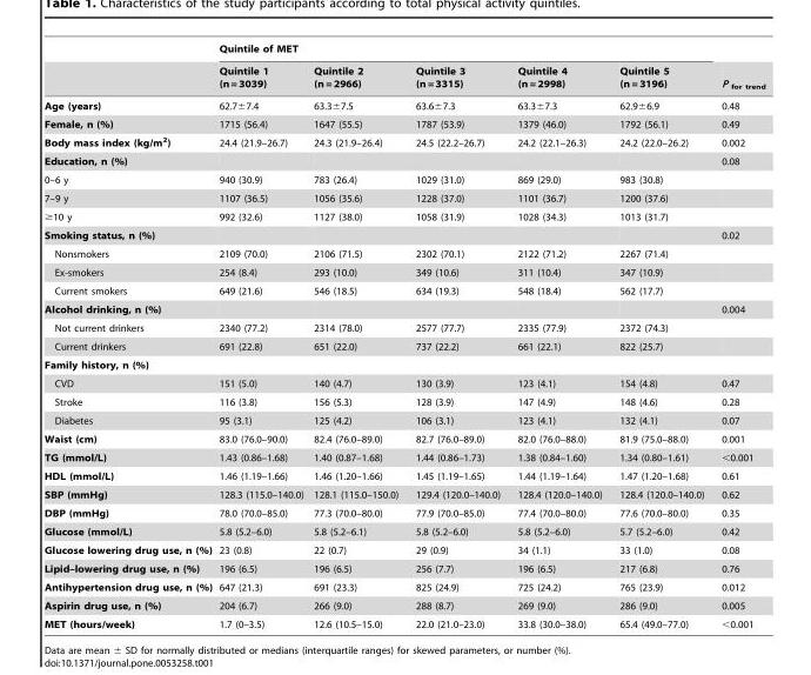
<table><thead><tr><td rowspan="2"></td><td colspan="5">Quintile of MET</td><td rowspan="2">P <sub>for trend</sub></td></tr><tr><td>Quintile 1 (n = 3039)</td><td>Quintile 2 (n = 2966)</td><td>Quintile 3 (n = 3315)</td><td>Quintile 4 (n = 2998)</td><td>Quintile 5 (n = 3196)</td></tr></thead><tbody><tr><td>Age (years)</td><td>62.7±7.4</td><td>63.3±7.5</td><td>63.6±7.3</td><td>63.3±7.3</td><td>62.9±6.9</td><td>0.48</td></tr><tr><td>Female, n (%)</td><td>1715 (56.4)</td><td>1647 (55.5)</td><td>1787 (53.9)</td><td>1379 (46.0)</td><td>1792 (56.1)</td><td>0.49</td></tr><tr><td>Body mass index (kg/m<sup>2</sup>)</td><td>24.4 (21.9–26.7)</td><td>24.3 (21.9–26.4)</td><td>24.5 (22.2–26.7)</td><td>24.2 (22.1–26.3)</td><td>24.2 (22.0–26.2)</td><td>0.002</td></tr><tr><td>Education, n (%)</td><td></td><td></td><td></td><td></td><td></td><td>0.08</td></tr><tr><td>0–6 y</td><td>940 (30.9)</td><td>783 (26.4)</td><td>1029 (31.0)</td><td>869 (29.0)</td><td>983 (30.8)</td><td></td></tr><tr><td>7–9 y</td><td>1107 (36.5)</td><td>1056 (35.6)</td><td>1228 (37.0)</td><td>1101 (36.7)</td><td>1200 (37.6)</td><td></td></tr><tr><td>≥10 y</td><td>992 (32.6)</td><td>1127 (38.0)</td><td>1058 (31.9)</td><td>1028 (34.3)</td><td>1013 (31.7)</td><td></td></tr><tr><td>Smoking status, n (%)</td><td></td><td></td><td></td><td></td><td></td><td>0.02</td></tr><tr><td>Nonsmokers</td><td>2109 (70.0)</td><td>2106 (71.5)</td><td>2302 (70.1)</td><td>2122 (71.2)</td><td>2267 (71.4)</td><td></td></tr><tr><td>Ex-smokers</td><td>254 (8.4)</td><td>293 (10.0)</td><td>349 (10.6)</td><td>311 (10.4)</td><td>347 (10.9)</td><td></td></tr><tr><td>Current smokers</td><td>649 (21.6)</td><td>546 (18.5)</td><td>634 (19.3)</td><td>548 (18.4)</td><td>562 (17.7)</td><td></td></tr><tr><td>Alcohol drinking, n (%)</td><td></td><td></td><td></td><td></td><td></td><td>0.004</td></tr><tr><td>Not current drinkers</td><td>2340 (77.2)</td><td>2314 (78.0)</td><td>2577 (77.7)</td><td>2335 (77.9)</td><td>2372 (74.3)</td><td></td></tr><tr><td>Current drinkers</td><td>691 (22.8)</td><td>651 (22.0)</td><td>737 (22.2)</td><td>661 (22.1)</td><td>822 (25.7)</td><td></td></tr><tr><td colspan="7">Family history, n (%)</td></tr><tr><td>CVD</td><td>151 (5.0)</td><td>140 (4.7)</td><td>130 (3.9)</td><td>123 (4.1)</td><td>154 (4.8)</td><td>0.47</td></tr><tr><td>Stroke</td><td>116 (3.8)</td><td>156 (5.3)</td><td>128 (3.9)</td><td>147 (4.9)</td><td>148 (4.6)</td><td>0.28</td></tr><tr><td>Diabetes</td><td>95 (3.1)</td><td>125 (4.2)</td><td>106 (3.1)</td><td>123 (4.1)</td><td>132 (4.1)</td><td>0.07</td></tr><tr><td>Waist (cm)</td><td>83.0 (76.0–90.0)</td><td>82.4 (76.0–89.0)</td><td>82.7 (76.0–89.0)</td><td>82.0 (76.0–88.0)</td><td>81.9 (75.0–88.0)</td><td>0.001</td></tr><tr><td>TG (mmol/L)</td><td>1.43 (0.86–1.68)</td><td>1.40 (0.87–1.68)</td><td>1.44 (0.86–1.73)</td><td>1.38 (0.84–1.60)</td><td>1.34 (0.80–1.61)</td><td>&lt;0.001</td></tr><tr><td>HDL (mmol/L)</td><td>1.46 (1.19–1.66)</td><td>1.46 (1.20–1.66)</td><td>1.45 (1.19–1.65)</td><td>1.44 (1.19–1.64)</td><td>1.47 (1.20–1.68)</td><td>0.61</td></tr><tr><td>SBP (mmHg)</td><td>128.3 (115.0–140.0)</td><td>128.1 (115.0–150.0)</td><td>129.4 (120.0–140.0)</td><td>128.4 (120.0–140.0)</td><td>128.4 (120.0–140.0)</td><td>0.62</td></tr><tr><td>DBP (mmHg)</td><td>78.0 (70.0–85.0)</td><td>77.3 (70.0–80.0)</td><td>77.9 (70.0–85.0)</td><td>77.4 (70.0–80.0)</td><td>77.6 (70.0–80.0)</td><td>0.35</td></tr><tr><td>Glucose (mmol/L)</td><td>5.8 (5.2–6.0)</td><td>5.8 (5.2–6.1)</td><td>5.8 (5.2–6.0)</td><td>5.8 (5.2–6.0)</td><td>5.7 (5.2–6.0)</td><td>0.42</td></tr><tr><td>Glucose lowering drug use, n (%)</td><td>23 (0.8)</td><td>22 (0.7)</td><td>29 (0.9)</td><td>34 (1.1)</td><td>33 (1.0)</td><td>0.08</td></tr><tr><td>Lipid–lowering drug use, n (%)</td><td>196 (6.5)</td><td>196 (6.5)</td><td>256 (7.7)</td><td>196 (6.5)</td><td>217 (6.8)</td><td>0.76</td></tr><tr><td>Antihypertension drug use, n (%)</td><td>647 (21.3)</td><td>691 (23.3)</td><td>825 (24.9)</td><td>725 (24.2)</td><td>765 (23.9)</td><td>0.012</td></tr><tr><td>Aspirin drug use, n (%)</td><td>204 (6.7)</td><td>266 (9.0)</td><td>288 (8.7)</td><td>269 (9.0)</td><td>286 (9.0)</td><td>0.005</td></tr><tr><td>MET (hours/week)</td><td>1.7 (0–3.5)</td><td>12.6 (10.5–15.0)</td><td>22.0 (21.0–23.0)</td><td>33.8 (30.0–38.0)</td><td>65.4 (49.0–77.0)</td><td>&lt;0.001</td></tr></tbody></table>